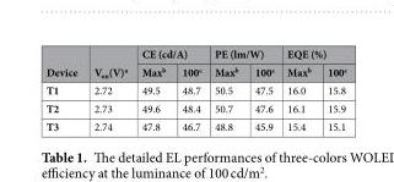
<table><thead><tr><td rowspan="2">Device</td><td rowspan="2">V<sub>on</sub>(V)<sup>a</sup></td><td colspan="2">CE (cd/A)</td><td colspan="2">PE (lm/W)</td><td colspan="2">EQE (%)</td></tr><tr><td>Max<sup>b</sup></td><td>100<sup>c</sup></td><td>Max<sup>b</sup></td><td>100<sup>c</sup></td><td>Max<sup>b</sup></td><td>100<sup>c</sup></td></tr></thead><tbody><tr><td>T1</td><td>2.72</td><td>49.5</td><td>48.7</td><td>50.5</td><td>47.5</td><td>16.0</td><td>15.8</td></tr><tr><td>T2</td><td>2.73</td><td>49.6</td><td>48.4</td><td>50.7</td><td>47.6</td><td>16.1</td><td>15.9</td></tr><tr><td>T3</td><td>2.74</td><td>47.8</td><td>46.7</td><td>48.8</td><td>45.9</td><td>15.4</td><td>15.1</td></tr></tbody></table>